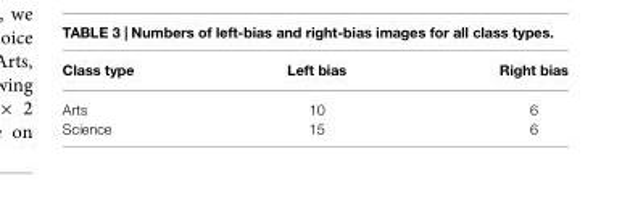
<table><thead><tr><td>Class type</td><td>Left bias</td><td>Right bias</td></tr></thead><tbody><tr><td>Arts</td><td>10</td><td>6</td></tr><tr><td>Science</td><td>15</td><td>6</td></tr></tbody></table>